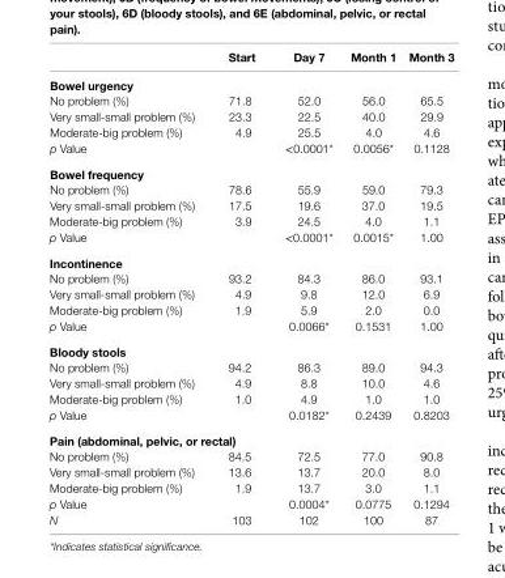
<table><thead><tr><td></td><td>start</td><td>Day 7</td><td>Month 1</td><td>Month 3</td></tr></thead><tbody><tr><td colspan="5">Bowel urgency</td></tr><tr><td>No problem (%)</td><td>71.8</td><td>52.0</td><td>56.0</td><td>65.5</td></tr><tr><td>Very small-small problem (%)</td><td>23.3</td><td>22.5</td><td>40.0</td><td>29.9</td></tr><tr><td>Moderate-big problem (%)</td><td>4.9</td><td>25.5</td><td>4.0</td><td>4.6</td></tr><tr><td>p Value</td><td></td><td>&lt;0.0001*</td><td>0.0056*</td><td>0.1128</td></tr><tr><td colspan="5">Bowel frequency</td></tr><tr><td>No problem (%)</td><td>78.6</td><td>55.9</td><td>59.0</td><td>79.3</td></tr><tr><td>Very small-small problem (%)</td><td>17.5</td><td>19.6</td><td>37.0</td><td>19.5</td></tr><tr><td>Moderate-big problem (%)</td><td>3.9</td><td>24.5</td><td>4.0</td><td>1.1</td></tr><tr><td>p Value</td><td></td><td>&lt;0.0001*</td><td>0.0015*</td><td>1.00</td></tr><tr><td colspan="5">incontinence</td></tr><tr><td>No problem (%)</td><td>93.2</td><td>84.3</td><td>86.0</td><td>93.1</td></tr><tr><td>Very small-small problem (%)</td><td>4.9</td><td>9.8</td><td>12.0</td><td>6.9</td></tr><tr><td>Moderate-big problem (%)</td><td>1.9</td><td>5.9</td><td>2.0</td><td>0.0</td></tr><tr><td>p Value</td><td></td><td>0.0066*</td><td>0.1531</td><td>1.00</td></tr><tr><td colspan="5">Bloody stools</td></tr><tr><td>No problem (%)</td><td>94.2</td><td>86.3</td><td>89.0</td><td>94.3</td></tr><tr><td>Very small-small problem (%)</td><td>4.9</td><td>8.8</td><td>10.0</td><td>4.6</td></tr><tr><td>Moderate-big problem (%)</td><td>1.0</td><td>4.9</td><td>1.0</td><td>1.0</td></tr><tr><td>p Value</td><td></td><td>0.0182*</td><td>0.2439</td><td>0.8203</td></tr><tr><td colspan="5">Pain (abdominal, pelvic, or rectal)</td></tr><tr><td>No problem (%)</td><td>84.5</td><td>72.5</td><td>77.0</td><td>90.8</td></tr><tr><td>Very small-small problem (%)</td><td>13.6</td><td>13.7</td><td>20.0</td><td>8.0</td></tr><tr><td>Moderate-big problem (%)</td><td>1.9</td><td>13.7</td><td>3.0</td><td>1.1</td></tr><tr><td>p Value</td><td></td><td>0.0004*</td><td>0.0775</td><td>0.1294</td></tr><tr><td>N</td><td>103</td><td>102</td><td>100</td><td>87</td></tr></tbody></table>